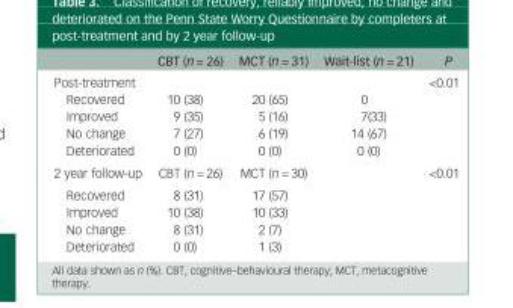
<table><thead><tr><td></td><td>CBT (n = 26)</td><td>MCT (n = 31)</td><td>Wait-list (n = 21)</td><td>P</td></tr></thead><tbody><tr><td>Post-treatment</td><td></td><td></td><td></td><td>&lt;0.01</td></tr><tr><td>Recovered</td><td>10 (38)</td><td>20 (65)</td><td>0</td><td></td></tr><tr><td>Improved</td><td>9 (35)</td><td>5 (16)</td><td>7(33)</td><td></td></tr><tr><td>No change</td><td>7 (27)</td><td>6 (19)</td><td>14 (67)</td><td></td></tr><tr><td>Deteriorated</td><td>0 (0)</td><td>0 (0)</td><td>0 (0)</td><td></td></tr><tr><td>2 year follow-up</td><td>CBT (n = 26)</td><td>MCT (n = 30)</td><td></td><td>&lt;0.01</td></tr><tr><td>Recovered</td><td>8 (31)</td><td>17 (57)</td><td></td><td></td></tr><tr><td>Improved</td><td>10 (38)</td><td>10 (33)</td><td></td><td></td></tr><tr><td>No change</td><td>8 (31)</td><td>2 (7)</td><td></td><td></td></tr><tr><td>Deteriorated</td><td>0 (0)</td><td>1 (3)</td><td></td><td></td></tr></tbody></table>